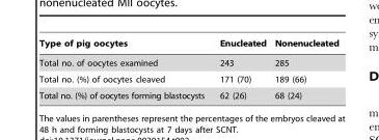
<table><thead><tr><td>Type of pig oocytes</td><td>Enucleated</td><td>Nonenucleated</td></tr></thead><tbody><tr><td>Total no. of oocytes examined</td><td>243</td><td>285</td></tr><tr><td>Total no. (%) of oocytes cleaved</td><td>171 (70)</td><td>189 (66)</td></tr><tr><td>Total no. (%) of oocytes forming blastocysts</td><td>62 (26)</td><td>68 (24)</td></tr></tbody></table>